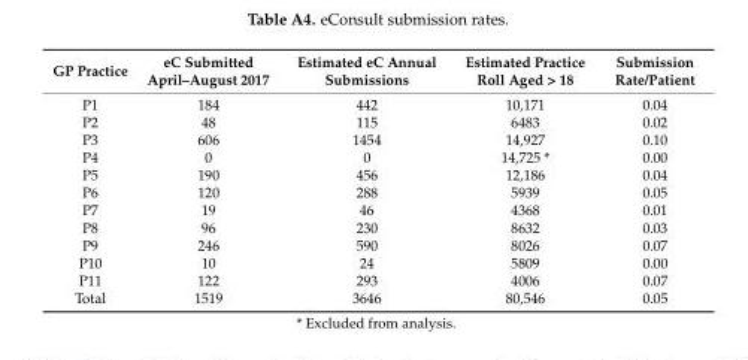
<table><thead><tr><td>GP Practice</td><td>eC Submitted April–August 2017</td><td>Estimated eC Annual Submissions</td><td>Estimated Practice Roll Aged &gt; 18</td><td>Submission Rate/Patient</td></tr></thead><tbody><tr><td>P1</td><td>184</td><td>442</td><td>10,171</td><td>0.04</td></tr><tr><td>P2</td><td>48</td><td>115</td><td>6483</td><td>0.02</td></tr><tr><td>P3</td><td>606</td><td>1454</td><td>14,927</td><td>0.10</td></tr><tr><td>P4</td><td>0</td><td>0</td><td>14,725 *</td><td>0.00</td></tr><tr><td>P5</td><td>190</td><td>456</td><td>12,186</td><td>0.04</td></tr><tr><td>P6</td><td>120</td><td>288</td><td>5939</td><td>0.05</td></tr><tr><td>P7</td><td>19</td><td>46</td><td>4368</td><td>0.01</td></tr><tr><td>P8</td><td>96</td><td>230</td><td>8632</td><td>0.03</td></tr><tr><td>P9</td><td>246</td><td>590</td><td>8026</td><td>0.07</td></tr><tr><td>P10</td><td>10</td><td>24</td><td>5809</td><td>0.00</td></tr><tr><td>P11</td><td>122</td><td>293</td><td>4006</td><td>0.07</td></tr><tr><td>Total</td><td>1519</td><td>3646</td><td>80,546</td><td>0.05</td></tr></tbody></table>